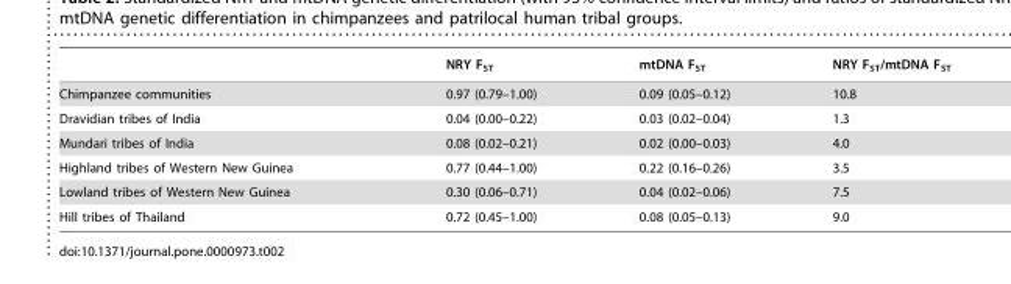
<table><thead><tr><td></td><td>NRY F<sub>ST</sub></td><td>mtDNA F<sub>ST</sub></td><td>NRY F<sub>ST</sub>/mtDNA F<sub>ST</sub></td></tr></thead><tbody><tr><td>Chimpanzee communities</td><td>0.97 (0.79–1.00)</td><td>0.09 (0.05–0.12)</td><td>10.8</td></tr><tr><td>Dravidian tribes of India</td><td>0.04 (0.00–0.22)</td><td>0.03 (0.02–0.04)</td><td>1.3</td></tr><tr><td>Mundari tribes of India</td><td>0.08 (0.02–0.21)</td><td>0.02 (0.00–0.03)</td><td>4.0</td></tr><tr><td>Highland tribes of Western New Guinea</td><td>0.77 (0.44–1.00)</td><td>0.22 (0.16–0.26)</td><td>3.5</td></tr><tr><td>Lowland tribes of Western New Guinea</td><td>0.30 (0.06–0.71)</td><td>0.04 (0.02–0.06)</td><td>7.5</td></tr><tr><td>Hill tribes of Thailand</td><td>0.72 (0.45–1.00)</td><td>0.08 (0.05–0.13)</td><td>9.0</td></tr></tbody></table>